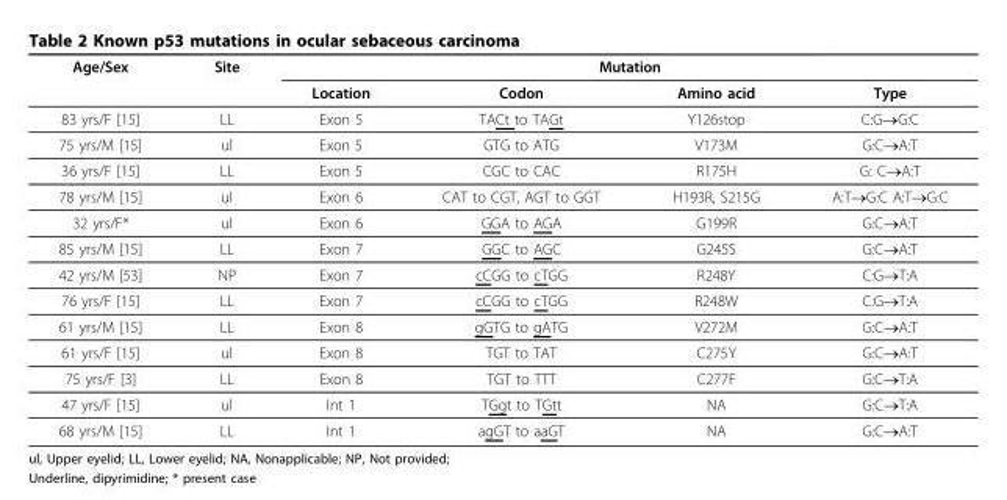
<table><thead><tr><td rowspan="2">Age/Sex</td><td rowspan="2">Site</td><td colspan="4">Mutation</td></tr><tr><td>Location</td><td>Codon</td><td>Amino acid</td><td>Type</td></tr></thead><tbody><tr><td>83 yrs/F [15]</td><td>LL</td><td>Exon 5</td><td>TACt to TAGt</td><td>Y126stop</td><td>C:G→G:C</td></tr><tr><td>75 yrs/M [15]</td><td>ul</td><td>Exon 5</td><td>GTG to ATG</td><td>V173M</td><td>G:C→A:T</td></tr><tr><td>36 yrs/F [15]</td><td>LL</td><td>Exon 5</td><td>CGC to CAC</td><td>R175H</td><td>G: C→A:T</td></tr><tr><td>78 yrs/M [15]</td><td>ul</td><td>Exon 6</td><td>CAT to CGT, AGT to GGT</td><td>H193R, S215G</td><td>A:T→G:C A:T→G:C</td></tr><tr><td>32 yrs/F*</td><td>ul</td><td>Exon 6</td><td>GGA to AGA</td><td>G199R</td><td>G:C→A:T</td></tr><tr><td>85 yrs/M [15]</td><td>LL</td><td>Exon 7</td><td>GGC to AGC</td><td>G245S</td><td>G:C→A:T</td></tr><tr><td>42 yrs/M [53]</td><td>NP</td><td>Exon 7</td><td>cCGG to cTGG</td><td>R248Y</td><td>C:G→T:A</td></tr><tr><td>76 yrs/F [15]</td><td>LL</td><td>Exon 7</td><td>cCGG to cTGG</td><td>R248W</td><td>C:G→T:A</td></tr><tr><td>61 yrs/M [15]</td><td>LL</td><td>Exon 8</td><td>gGTG to gATG</td><td>V272M</td><td>G:C→A:T</td></tr><tr><td>61 yrs/F [15]</td><td>ul</td><td>Exon 8</td><td>TGT to TAT</td><td>C275Y</td><td>G:C→A:T</td></tr><tr><td>75 yrs/F [3]</td><td>LL</td><td>Exon 8</td><td>TGT to TTT</td><td>C277F</td><td>G:C→T:A</td></tr><tr><td>47 yrs/F [15]</td><td>ul</td><td>Int 1</td><td>TGgt to TGtt</td><td>NA</td><td>G:C→T:A</td></tr><tr><td>68 yrs/M [15]</td><td>LL</td><td>Int 1</td><td>agGT to aaGT</td><td>NA</td><td>G:C→A:T</td></tr></tbody></table>